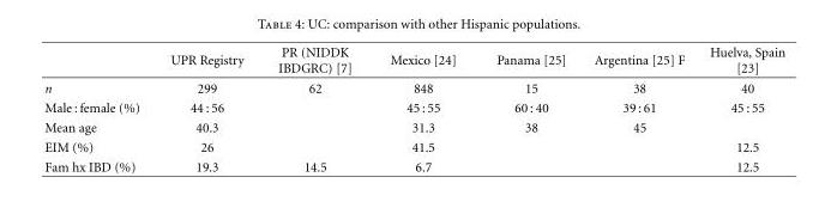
<table><thead><tr><td></td><td>UPR Registry</td><td>PR (NIDDK IBDGRC) [7]</td><td>Mexico [24]</td><td>Panama [25]</td><td>Argentina [25] F</td><td>Huelva, Spain [23]</td></tr></thead><tbody><tr><td>n</td><td>299</td><td>62</td><td>848</td><td>15</td><td>38</td><td>40</td></tr><tr><td>Male : female (%)</td><td>44 : 56</td><td></td><td>45 : 55</td><td>60 : 40</td><td>39 : 61</td><td>45 : 55</td></tr><tr><td>Mean age</td><td>40.3</td><td></td><td>31.3</td><td>38</td><td>45</td><td></td></tr><tr><td>EIM (%)</td><td>26</td><td></td><td>41.5</td><td></td><td></td><td>12.5</td></tr><tr><td>Fam hx IBD (%)</td><td>19.3</td><td>14.5</td><td>6.7</td><td></td><td></td><td>12.5</td></tr></tbody></table>